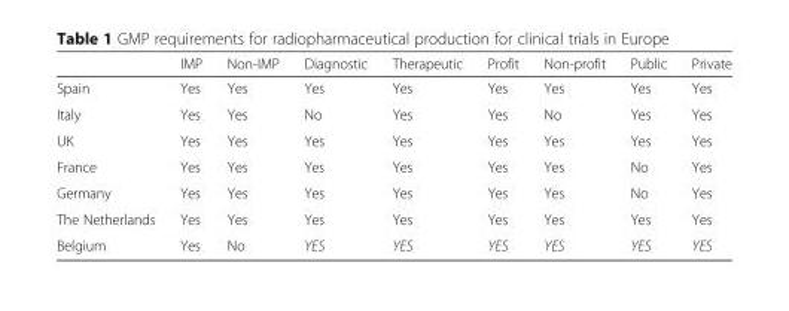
<table><thead><tr><td></td><td>IMP</td><td>Non-IMP</td><td>Diagnostic</td><td>Therapeutic</td><td>Profit</td><td>Non-profit</td><td>Public</td><td>Private</td></tr></thead><tbody><tr><td>Spain</td><td>Yes</td><td>Yes</td><td>Yes</td><td>Yes</td><td>Yes</td><td>Yes</td><td>Yes</td><td>Yes</td></tr><tr><td>Italy</td><td>Yes</td><td>Yes</td><td>No</td><td>Yes</td><td>Yes</td><td>No</td><td>Yes</td><td>Yes</td></tr><tr><td>UK</td><td>Yes</td><td>Yes</td><td>Yes</td><td>Yes</td><td>Yes</td><td>Yes</td><td>Yes</td><td>Yes</td></tr><tr><td>France</td><td>Yes</td><td>Yes</td><td>Yes</td><td>Yes</td><td>Yes</td><td>Yes</td><td>No</td><td>Yes</td></tr><tr><td>Germany</td><td>Yes</td><td>Yes</td><td>Yes</td><td>Yes</td><td>Yes</td><td>Yes</td><td>No</td><td>Yes</td></tr><tr><td>The Netherlands</td><td>Yes</td><td>Yes</td><td>Yes</td><td>Yes</td><td>Yes</td><td>Yes</td><td>Yes</td><td>Yes</td></tr><tr><td>Belgium</td><td>Yes</td><td>No</td><td>YES</td><td>YES</td><td>YES</td><td>YES</td><td>YES</td><td>YES</td></tr></tbody></table>